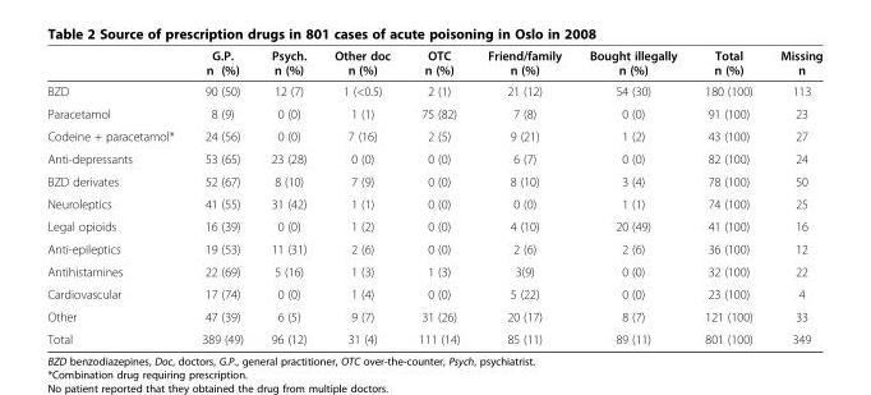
<table><thead><tr><td></td><td>G.P. n (%)</td><td>Psych. n (%)</td><td>Other doc n (%)</td><td>OTC n (%)</td><td>Friend/family n (%)</td><td>Bought illegally n (%)</td><td>Total n (%)</td><td>Missing n</td></tr></thead><tbody><tr><td>BZD</td><td>90 (50)</td><td>12 (7)</td><td>1 (&lt;0.5)</td><td>2 (1)</td><td>21 (12)</td><td>54 (30)</td><td>180 (100)</td><td>113</td></tr><tr><td>Paracetamol</td><td>8 (9)</td><td>0 (0)</td><td>1 (1)</td><td>75 (82)</td><td>7 (8)</td><td>0 (0)</td><td>91 (100)</td><td>23</td></tr><tr><td>Codeine + paracetamol*</td><td>24 (56)</td><td>0 (0)</td><td>7 (16)</td><td>2 (5)</td><td>9 (21)</td><td>1 (2)</td><td>43 (100)</td><td>27</td></tr><tr><td>Anti-depressants</td><td>53 (65)</td><td>23 (28)</td><td>0 (0)</td><td>0 (0)</td><td>6 (7)</td><td>0 (0)</td><td>82 (100)</td><td>24</td></tr><tr><td>BZD derivates</td><td>52 (67)</td><td>8 (10)</td><td>7 (9)</td><td>0 (0)</td><td>8 (10)</td><td>3 (4)</td><td>78 (100)</td><td>50</td></tr><tr><td>Neuroleptics</td><td>41 (55)</td><td>31 (42)</td><td>1 (1)</td><td>0 (0)</td><td>0 (0)</td><td>1 (1)</td><td>74 (100)</td><td>25</td></tr><tr><td>Legal opioids</td><td>16 (39)</td><td>0 (0)</td><td>1 (2)</td><td>0 (0)</td><td>4 (10)</td><td>20 (49)</td><td>41 (100)</td><td>16</td></tr><tr><td>Anti-epileptics</td><td>19 (53)</td><td>11 (31)</td><td>2 (6)</td><td>0 (0)</td><td>2 (6)</td><td>2 (6)</td><td>36 (100)</td><td>12</td></tr><tr><td>Antihistamines</td><td>22 (69)</td><td>5 (16)</td><td>1 (3)</td><td>1 (3)</td><td>3(9)</td><td>0 (0)</td><td>32 (100)</td><td>22</td></tr><tr><td>Cardiovascular</td><td>17 (74)</td><td>0 (0)</td><td>1 (4)</td><td>0 (0)</td><td>5 (22)</td><td>0 (0)</td><td>23 (100)</td><td>4</td></tr><tr><td>Other</td><td>47 (39)</td><td>6 (5)</td><td>9 (7)</td><td>31 (26)</td><td>20 (17)</td><td>8 (7)</td><td>121 (100)</td><td>33</td></tr><tr><td>Total</td><td>389 (49)</td><td>96 (12)</td><td>31 (4)</td><td>111 (14)</td><td>85 (11)</td><td>89 (11)</td><td>801 (100)</td><td>349</td></tr></tbody></table>